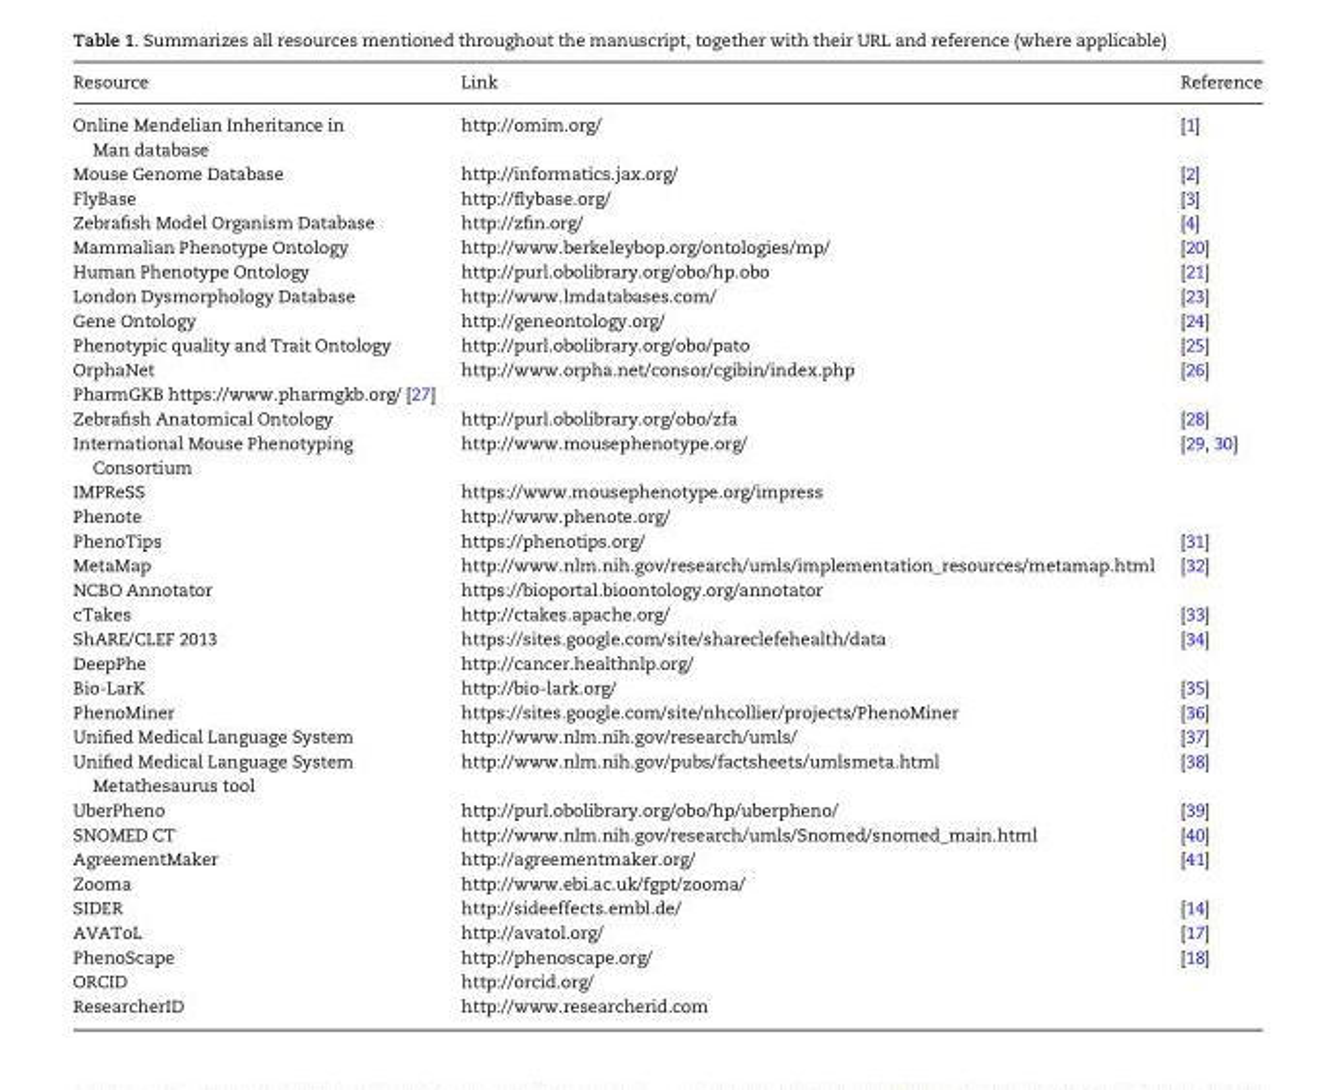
<table><thead><tr><td>Resource</td><td>Link</td><td>Reference</td></tr></thead><tbody><tr><td>Online Mendelian Inheritance in Man database</td><td>http://omim.org/</td><td>[1]</td></tr><tr><td>Mouse Genome Database</td><td>http://informatics.jax.org/</td><td>[2]</td></tr><tr><td>FlyBase</td><td>http://flybase.org/</td><td>[3]</td></tr><tr><td>Zebrafish Model Organism Database</td><td>http://zfin.org/</td><td>[4]</td></tr><tr><td>Mammalian Phenotype Ontology</td><td>http://www.berkeleybop.org/ontologies/mp/</td><td>[20]</td></tr><tr><td>Human Phenotype Ontology</td><td>http://purl.obolibrary.org/obo/hp.obo</td><td>[21]</td></tr><tr><td>London Dysmorphology Database</td><td>http://www.lmdatabases.com/</td><td>[23]</td></tr><tr><td>Gene Ontology</td><td>http://geneontology.org/</td><td>[24]</td></tr><tr><td>Phenotypic quality and Trait Ontology</td><td>http://purl.obolibrary.org/obo/pato</td><td>[25]</td></tr><tr><td>OrphaNet</td><td>http://www.orpha.net/consor/cgibin/index.php</td><td>[26]</td></tr><tr><td colspan="3">PharmGKB https://www.pharmgkb.org/ [27]</td></tr><tr><td>Zebrafish Anatomical Ontology</td><td>http://purl.obolibrary.org/obo/zfa</td><td>[28]</td></tr><tr><td>International Mouse Phenotyping Consortium</td><td>http://www.mousephenotype.org/</td><td>[29, 30]</td></tr><tr><td>IMPReSS</td><td>https://www.mousephenotype.org/impress</td><td></td></tr><tr><td>Phenote</td><td>http://www.phenote.org/</td><td></td></tr><tr><td>PhenoTips</td><td>https://phenotips.org/</td><td>[31]</td></tr><tr><td>MetaMap</td><td>http://www.nlm.nih.gov/research/umls/implementation_resources/metamap.html</td><td>[32]</td></tr><tr><td>NCBO Annotator</td><td>https://bioportal.bioontology.org/annotator</td><td></td></tr><tr><td>cTakes</td><td>http://ctakes.apache.org/</td><td>[33]</td></tr><tr><td>ShARE/CLEF 2013</td><td>https://sites.google.com/site/shareclefehealth/data</td><td>[34]</td></tr><tr><td>DeepPhe</td><td>http://cancer.healthnlp.org/</td><td></td></tr><tr><td>Bio-LarK</td><td>http://bio-lark.org/</td><td>[35]</td></tr><tr><td>PhenoMiner</td><td>https://sites.google.com/site/nhcollier/projects/PhenoMiner</td><td>[36]</td></tr><tr><td>Unified Medical Language System</td><td>http://www.nlm.nih.gov/research/umls/</td><td>[37]</td></tr><tr><td>Unified Medical Language System Metathesaurus tool</td><td>http://www.nlm.nih.gov/pubs/factsheets/umlsmeta.html</td><td>[38]</td></tr><tr><td>UberPheno</td><td>http://purl.obolibrary.org/obo/hp/uberpheno/</td><td>[39]</td></tr><tr><td>SNOMED CT</td><td>http://www.nlm.nih.gov/research/umls/Snomed/snomed_main.html</td><td>[40]</td></tr><tr><td>AgreementMaker</td><td>http://agreementmaker.org/</td><td>[41]</td></tr><tr><td>Zooma</td><td>http://www.ebi.ac.uk/fgpt/zooma/</td><td></td></tr><tr><td>SIDER</td><td>http://sideeffects.embl.de/</td><td>[14]</td></tr><tr><td>AVAToL</td><td>http://avatol.org/</td><td>[17]</td></tr><tr><td>PhenoScape</td><td>http://phenoscape.org/</td><td>[18]</td></tr><tr><td>ORCID</td><td>http://orcid.org/</td><td></td></tr><tr><td>ResearcherID</td><td>http://www.researcherid.com</td><td></td></tr></tbody></table>